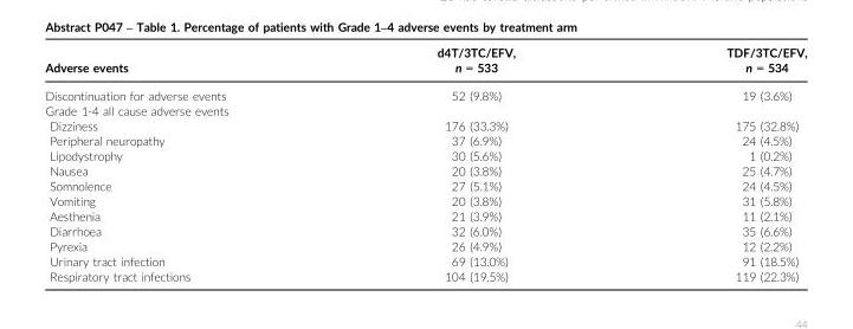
<table><thead><tr><td>Adverse events</td><td>d4T/3TC/EFV, n = 533</td><td>TDF/3TC/EFV, n = 534</td></tr></thead><tbody><tr><td>Discontinuation for adverse events</td><td>52 (9.8%)</td><td>19 (3.6%)</td></tr><tr><td colspan="3">Grade 1-4 all cause adverse events</td></tr><tr><td>Dizziness</td><td>176 (33.3%)</td><td>175 (32.8%)</td></tr><tr><td>Peripheral neuropathy</td><td>37 (6.9%)</td><td>24 (4.5%)</td></tr><tr><td>Lipodystrophy</td><td>30 (5.6%)</td><td>1 (0.2%)</td></tr><tr><td>Nausea</td><td>20 (3.8%)</td><td>25 (4.7%)</td></tr><tr><td>Somnolence</td><td>27 (5.1%)</td><td>24 (4.5%)</td></tr><tr><td>Vomiting</td><td>20 (3.8%)</td><td>31 (5.8%)</td></tr><tr><td>Aesthenia</td><td>21 (3.9%)</td><td>11 (2.1%)</td></tr><tr><td>Diarrhoea</td><td>32 (6.0%)</td><td>35 (6.6%)</td></tr><tr><td>Pyrexia</td><td>26 (4.9%)</td><td>12 (2.2%)</td></tr><tr><td>Urinary tract infection</td><td>69 (13.0%)</td><td>91 (18.5%)</td></tr><tr><td>Respiratory tract infections</td><td>104 (19.5%)</td><td>119 (22.3%)</td></tr></tbody></table>